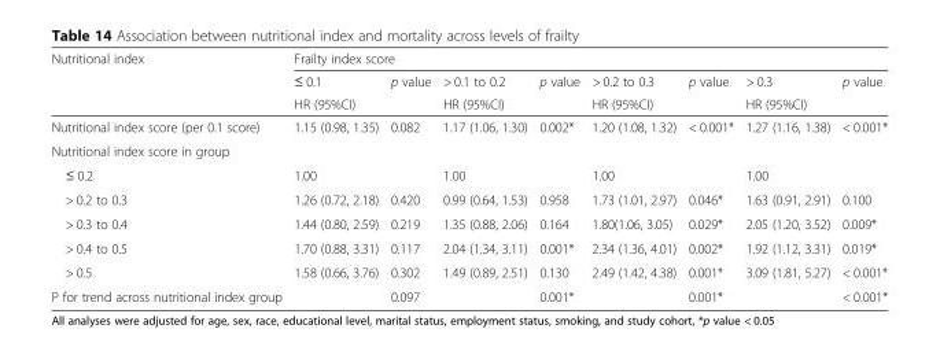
<table><thead><tr><td rowspan="3">Nutritional index</td><td colspan="8">Frailty index score</td></tr><tr><td rowspan="2">≤ 0.1 HR (95%CI)</td><td rowspan="2">p value</td><td rowspan="2">&gt; 0.1 to 0.2 HR (95%CI)</td><td rowspan="2">p value</td><td rowspan="2">&gt; 0.2 to 0.3 HR (95%CI)</td><td rowspan="2">p value</td><td rowspan="2">&gt; 0.3 HR (95%CI)</td><td rowspan="2">p value</td></tr><tr></tr></thead><tbody><tr><td>Nutritional index score (per 0.1 score)</td><td>1.15 (0.98, 1.35)</td><td>0.082</td><td>1.17 (1.06, 1.30)</td><td>0.002*</td><td>1.20 (1.08, 1.32)</td><td>&lt; 0.001*</td><td>1.27 (1.16, 1.38)</td><td>&lt; 0.001*</td></tr><tr><td colspan="9">Nutritional index score in group</td></tr><tr><td>≤ 0.2</td><td>1.00</td><td></td><td>1.00</td><td></td><td>1.00</td><td></td><td>1.00</td><td></td></tr><tr><td>&gt; 0.2 to 0.3</td><td>1.26 (0.72, 2.18)</td><td>0.420</td><td>0.99 (0.64, 1.53)</td><td>0.958</td><td>1.73 (1.01, 2.97)</td><td>0.046*</td><td>1.63 (0.91, 2.91)</td><td>0.100</td></tr><tr><td>&gt; 0.3 to 0.4</td><td>1.44 (0.80, 2.59)</td><td>0.219</td><td>1.35 (0.88, 2.06)</td><td>0.164</td><td>1.80(1.06, 3.05)</td><td>0.029*</td><td>2.05 (1.20, 3.52)</td><td>0.009*</td></tr><tr><td>&gt; 0.4 to 0.5</td><td>1.70 (0.88, 3.31)</td><td>0.117</td><td>2.04 (1.34, 3.11)</td><td>0.001*</td><td>2.34 (1.36, 4.01)</td><td>0.002*</td><td>1.92 (1.12, 3.31)</td><td>0.019*</td></tr><tr><td>&gt; 0.5</td><td>1.58 (0.66, 3.76)</td><td>0.302</td><td>1.49 (0.89, 2.51)</td><td>0.130</td><td>2.49 (1.42, 4.38)</td><td>0.001*</td><td>3.09 (1.81, 5.27)</td><td>&lt; 0.001*</td></tr><tr><td>P for trend across nutritional index group</td><td></td><td>0.097</td><td></td><td>0.001*</td><td></td><td>0.001*</td><td></td><td>&lt; 0.001*</td></tr></tbody></table>